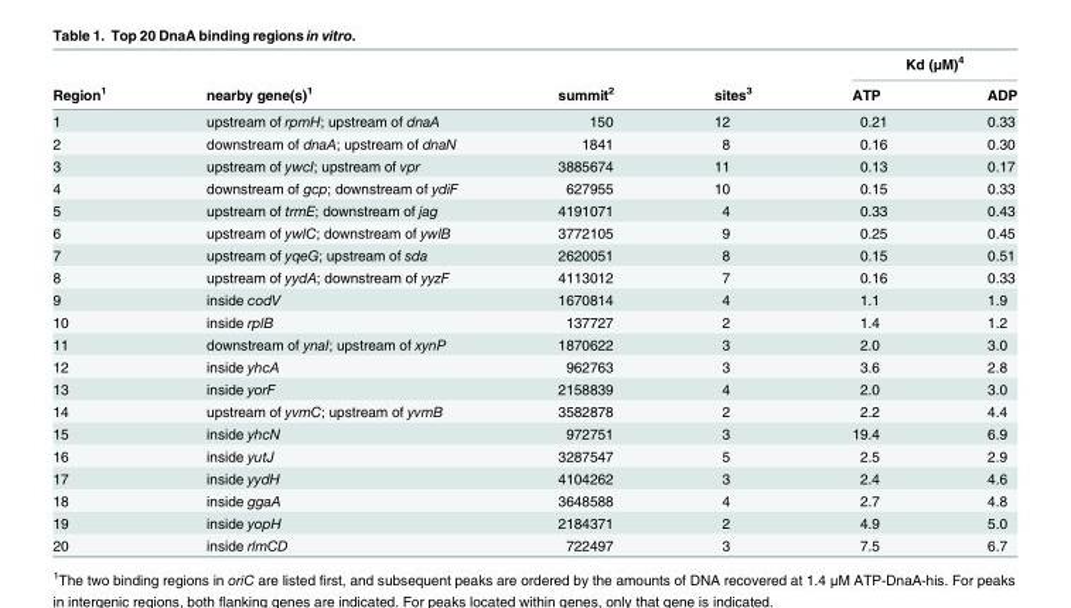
<table><thead><tr><td rowspan="2">Region<sup>1</sup></td><td rowspan="2">nearby gene(s)<sup>1</sup></td><td rowspan="2">summit<sup>2</sup></td><td rowspan="2">sites<sup>3</sup></td><td colspan="2">Kd (μM)<sup>4</sup></td></tr><tr><td>ATP</td><td>ADP</td></tr></thead><tbody><tr><td>1</td><td>upstream of rpmH; upstream of dnaA</td><td>150</td><td>12</td><td>0.21</td><td>0.33</td></tr><tr><td>2</td><td>downstream of dnaA; upstream of dnaN</td><td>1841</td><td>8</td><td>0.16</td><td>0.30</td></tr><tr><td>3</td><td>upstream of ywcI; upstream of vpr</td><td>3885674</td><td>11</td><td>0.13</td><td>0.17</td></tr><tr><td>4</td><td>downstream of gcp; downstream of ydiF</td><td>627955</td><td>10</td><td>0.15</td><td>0.33</td></tr><tr><td>5</td><td>upstream of trmE; downstream of jag</td><td>4191071</td><td>4</td><td>0.33</td><td>0.43</td></tr><tr><td>6</td><td>upstream of ywlC; downstream of ywlB</td><td>3772105</td><td>9</td><td>0.25</td><td>0.45</td></tr><tr><td>7</td><td>upstream of yqeG; upstream of sda</td><td>2620051</td><td>8</td><td>0.15</td><td>0.51</td></tr><tr><td>8</td><td>upstream of yydA; downstream of yyzF</td><td>4113012</td><td>7</td><td>0.16</td><td>0.33</td></tr><tr><td>9</td><td>inside codV</td><td>1670814</td><td>4</td><td>1.1</td><td>1.9</td></tr><tr><td>10</td><td>inside rplB</td><td>137727</td><td>2</td><td>1.4</td><td>1.2</td></tr><tr><td>11</td><td>downstream of ynaI; upstream of xynP</td><td>1870622</td><td>3</td><td>2.0</td><td>3.0</td></tr><tr><td>12</td><td>inside yhcA</td><td>962763</td><td>3</td><td>3.6</td><td>2.8</td></tr><tr><td>13</td><td>inside yorF</td><td>2158839</td><td>4</td><td>2.0</td><td>3.0</td></tr><tr><td>14</td><td>upstream of yvmC; upstream of yvmB</td><td>3582878</td><td>2</td><td>2.2</td><td>4.4</td></tr><tr><td>15</td><td>inside yhcN</td><td>972751</td><td>3</td><td>19.4</td><td>6.9</td></tr><tr><td>16</td><td>inside yutJ</td><td>3287547</td><td>5</td><td>2.5</td><td>2.9</td></tr><tr><td>17</td><td>inside yydH</td><td>4104262</td><td>3</td><td>2.4</td><td>4.6</td></tr><tr><td>18</td><td>inside ggaA</td><td>3648588</td><td>4</td><td>2.7</td><td>4.8</td></tr><tr><td>19</td><td>inside yopH</td><td>2184371</td><td>2</td><td>4.9</td><td>5.0</td></tr><tr><td>20</td><td>inside rlmCD</td><td>722497</td><td>3</td><td>7.5</td><td>6.7</td></tr></tbody></table>